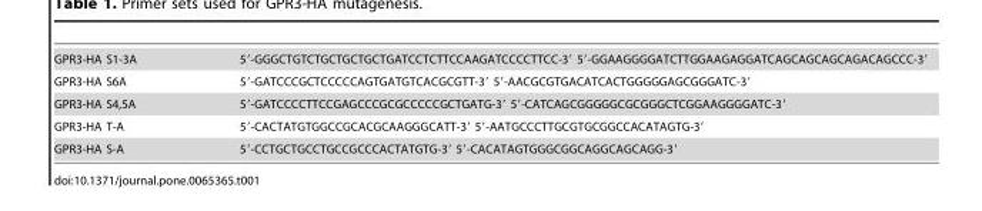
<table><tbody><tr><td>GPR3-HA S1-3A</td><td>5′-GGGCTGTCTGCTGCTGCTGATCCTCTTCCAAGATCCCCTTCC-3′ 5′-GGAAGGGGATCTTGGAAGAGGATCAGCAGCAGCAGACAGCCC-3′</td></tr><tr><td>GPR3-HA S6A</td><td>5′-GATCCCGCTCCCCCAGTGATGTCACGCGTT-3′ 5′-AACGCGTGACATCACTGGGGGAGCGGGATC-3′</td></tr><tr><td>GPR3-HA S4,5A</td><td>5′-GATCCCCTTCCGAGCCCGCGCCCCCGCTGATG-3′ 5′-CATCAGCGGGGGCGCGGGCTCGGAAGGGGATC-3′</td></tr><tr><td>GPR3-HA T-A</td><td>5′-CACTATGTGGCCGCACGCAAGGGCATT-3′ 5′-AATGCCCTTGCGTGCGGCCACATAGTG-3′</td></tr><tr><td>GPR3-HA S-A</td><td>5′-CCTGCTGCCTGCCGCCCACTATGTG-3′ 5′-CACATAGTGGGCGGCAGGCAGCAGG-3′</td></tr></tbody></table>